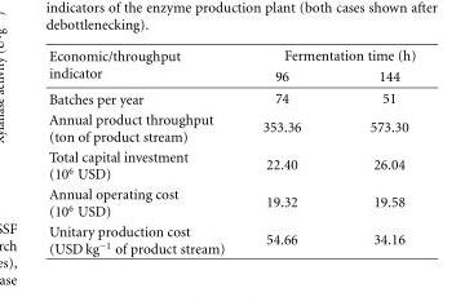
<table><thead><tr><td rowspan="2">Economic/throughput indicator</td><td colspan="2">Fermentation time (h)</td></tr><tr><td>96</td><td>144</td></tr></thead><tbody><tr><td>Batches per year</td><td>74</td><td>51</td></tr><tr><td>Annual product throughput (ton of product stream)</td><td>353.36</td><td>573.30</td></tr><tr><td>Total capital investment (10<sup>6</sup> USD)</td><td>22.40</td><td>26.04</td></tr><tr><td>Annual operating cost (10<sup>6</sup> USD)</td><td>19.32</td><td>19.58</td></tr><tr><td>Unitary production cost (USD kg<sup>−1</sup> of product stream)</td><td>54.66</td><td>34.16</td></tr></tbody></table>